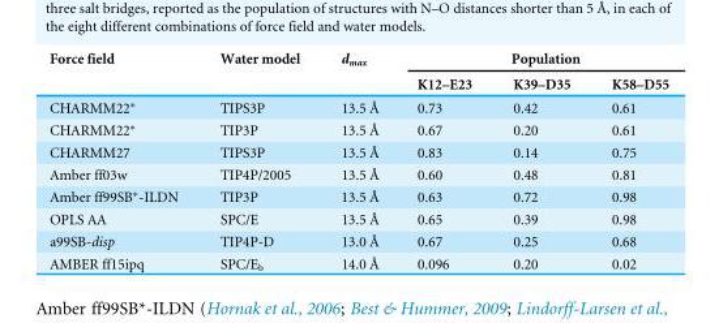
<table><thead><tr><td rowspan="2">Force field</td><td rowspan="2">Water model</td><td rowspan="2">d<sub>max</sub></td><td colspan="3">Population</td></tr><tr><td>K12–E23</td><td>K39–D35</td><td>K58–D55</td></tr></thead><tbody><tr><td>CHARMM22∗</td><td>TIPS3P</td><td>13.5 Å</td><td>0.73</td><td>0.42</td><td>0.61</td></tr><tr><td>CHARMM22∗</td><td>TIP3P</td><td>13.5 Å</td><td>0.67</td><td>0.20</td><td>0.61</td></tr><tr><td>CHARMM27</td><td>TIPS3P</td><td>13.5 Å</td><td>0.83</td><td>0.14</td><td>0.75</td></tr><tr><td>Amber ff03w</td><td>TIP4P/2005</td><td>13.5 Å</td><td>0.60</td><td>0.48</td><td>0.81</td></tr><tr><td>Amber ff99SB∗-ILDN</td><td>TIP3P</td><td>13.5 Å</td><td>0.63</td><td>0.72</td><td>0.98</td></tr><tr><td>OPLS AA</td><td>SPC/E</td><td>13.5 Å</td><td>0.65</td><td>0.39</td><td>0.98</td></tr><tr><td>a99SB-disp</td><td>TIP4P-D</td><td>13.0 Å</td><td>0.67</td><td>0.25</td><td>0.68</td></tr><tr><td>AMBER ff15ipq</td><td>SPC/E<sub>b</sub></td><td>14.0 Å</td><td>0.096</td><td>0.20</td><td>0.02</td></tr></tbody></table>